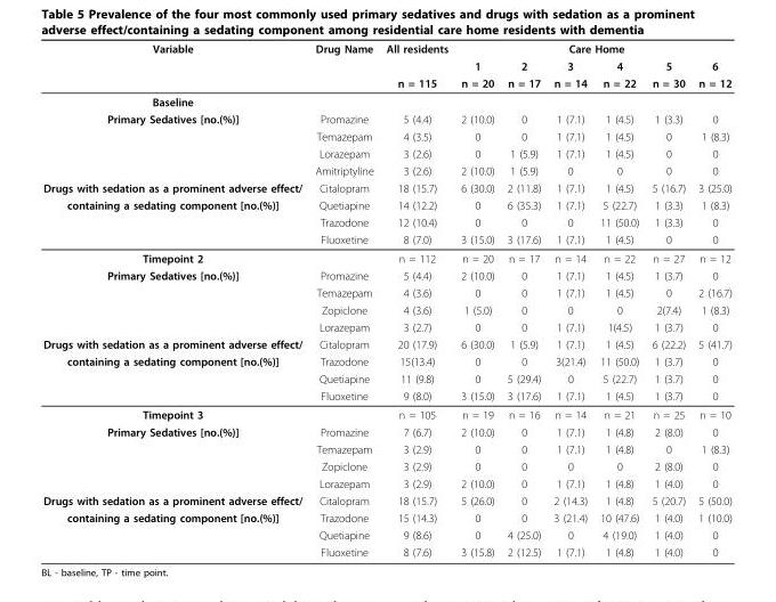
<table><thead><tr><td rowspan="3">Variable</td><td rowspan="3">Drug Name</td><td rowspan="3">All residents n = 115</td><td colspan="6">Care Home</td></tr><tr><td rowspan="2">1 n = 20</td><td rowspan="2">2 n = 17</td><td rowspan="2">3 n = 14</td><td rowspan="2">4 n = 22</td><td rowspan="2">5 n = 30</td><td rowspan="2">6 n = 12</td></tr><tr></tr></thead><tbody><tr><td colspan="9">Baseline</td></tr><tr><td rowspan="4">Primary Sedatives [no.(%)]</td><td>Promazine</td><td>5 (4.4)</td><td>2 (10.0)</td><td>0</td><td>1 (7.1)</td><td>1 (4.5)</td><td>1 (3.3)</td><td>0</td></tr><tr><td>Temazepam</td><td>4 (3.5)</td><td>0</td><td>0</td><td>1 (7.1)</td><td>1 (4.5)</td><td>0</td><td>1 (8.3)</td></tr><tr><td>Lorazepam</td><td>3 (2.6)</td><td>0</td><td>1 (5.9)</td><td>1 (7.1)</td><td>1 (4.5)</td><td>0</td><td>0</td></tr><tr><td>Amitriptyline</td><td>3 (2.6)</td><td>2 (10.0)</td><td>1 (5.9)</td><td>0</td><td>0</td><td>0</td><td>0</td></tr><tr><td>Drugs with sedation as a prominent adverse effect/</td><td>Citalopram</td><td>18 (15.7)</td><td>6 (30.0)</td><td>2 (11.8)</td><td>1 (7.1)</td><td>1 (4.5)</td><td>5 (16.7)</td><td>3 (25.0)</td></tr><tr><td rowspan="3">containing a sedating component [no.(%)]</td><td>Quetiapine</td><td>14 (12.2)</td><td>0</td><td>6 (35.3)</td><td>1 (7.1)</td><td>5 (22.7)</td><td>1 (3.3)</td><td>1 (8.3)</td></tr><tr><td>Trazodone</td><td>12 (10.4)</td><td>0</td><td>0</td><td>0</td><td>11 (50.0)</td><td>1 (3.3)</td><td>0</td></tr><tr><td>Fluoxetine</td><td>8 (7.0)</td><td>3 (15.0)</td><td>3 (17.6)</td><td>1 (7.1)</td><td>1 (4.5)</td><td>0</td><td>0</td></tr><tr><td>Timepoint 2</td><td></td><td>n = 112</td><td>n = 20</td><td>n = 17</td><td>n = 14</td><td>n = 22</td><td>n = 27</td><td>n = 12</td></tr><tr><td rowspan="4">Primary Sedatives [no.(%)]</td><td>Promazine</td><td>5 (4.4)</td><td>2 (10.0)</td><td>0</td><td>1 (7.1)</td><td>1 (4.5)</td><td>1 (3.7)</td><td>0</td></tr><tr><td>Temazepam</td><td>4 (3.6)</td><td>0</td><td>0</td><td>1 (7.1)</td><td>1 (4.5)</td><td>0</td><td>2 (16.7)</td></tr><tr><td>Zopiclone</td><td>4 (3.6)</td><td>1 (5.0)</td><td>0</td><td>0</td><td>0</td><td>2(7.4)</td><td>1 (8.3)</td></tr><tr><td>Lorazepam</td><td>3 (2.7)</td><td>0</td><td>0</td><td>1 (7.1)</td><td>1(4.5)</td><td>1 (3.7)</td><td>0</td></tr><tr><td>Drugs with sedation as a prominent adverse effect/</td><td>Citalopram</td><td>20 (17.9)</td><td>6 (30.0)</td><td>1 (5.9)</td><td>1 (7.1)</td><td>1 (4.5)</td><td>6 (22.2)</td><td>5 (41.7)</td></tr><tr><td rowspan="3">containing a sedating component [no.(%)]</td><td>Trazodone</td><td>15(13.4)</td><td>0</td><td>0</td><td>3(21.4)</td><td>11 (50.0)</td><td>1 (3.7)</td><td>0</td></tr><tr><td>Quetiapine</td><td>11 (9.8)</td><td>0</td><td>5 (29.4)</td><td>0</td><td>5 (22.7)</td><td>1 (3.7)</td><td>0</td></tr><tr><td>Fluoxetine</td><td>9 (8.0)</td><td>3 (15.0)</td><td>3 (17.6)</td><td>1 (7.1)</td><td>1 (4.5)</td><td>1 (3.7)</td><td>0</td></tr><tr><td>Timepoint 3</td><td></td><td>n = 105</td><td>n = 19</td><td>n = 16</td><td>n = 14</td><td>n = 21</td><td>n = 25</td><td>n = 10</td></tr><tr><td rowspan="4">Primary Sedatives [no.(%)]</td><td>Promazine</td><td>7 (6.7)</td><td>2 (10.0)</td><td>0</td><td>1 (7.1)</td><td>1 (4.8)</td><td>2 (8.0)</td><td>0</td></tr><tr><td>Temazepam</td><td>3 (2.9)</td><td>0</td><td>0</td><td>1 (7.1)</td><td>1 (4.8)</td><td>0</td><td>1 (8.3)</td></tr><tr><td>Zopiclone</td><td>3 (2.9)</td><td>0</td><td>0</td><td>0</td><td>0</td><td>2 (8.0)</td><td>0</td></tr><tr><td>Lorazepam</td><td>3 (2.9)</td><td>2 (10.0)</td><td>0</td><td>1 (7.1)</td><td>1 (4.8)</td><td>1 (4.0)</td><td>0</td></tr><tr><td>Drugs with sedation as a prominent adverse effect/</td><td>Citalopram</td><td>18 (15.7)</td><td>5 (26.0)</td><td>0</td><td>2 (14.3)</td><td>1 (4.8)</td><td>5 (20.7)</td><td>5 (50.0)</td></tr><tr><td rowspan="3">containing a sedating component [no.(%)]</td><td>Trazodone</td><td>15 (14.3)</td><td>0</td><td>0</td><td>3 (21.4)</td><td>10 (47.6)</td><td>1 (4.0)</td><td>1 (10.0)</td></tr><tr><td>Quetiapine</td><td>9 (8.6)</td><td>0</td><td>4 (25.0)</td><td>0</td><td>4 (19.0)</td><td>1 (4.0)</td><td>0</td></tr><tr><td>Fluoxetine</td><td>8 (7.6)</td><td>3 (15.8)</td><td>2 (12.5)</td><td>1 (7.1)</td><td>1 (4.8)</td><td>1 (4.0)</td><td>0</td></tr></tbody></table>